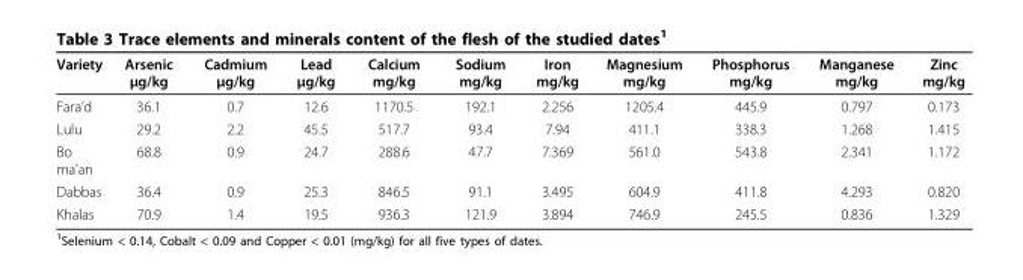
<table><thead><tr><td>Variety</td><td>Arsenic μg/kg</td><td>Cadmium μg/kg</td><td>Lead μg/kg</td><td>Calcium mg/kg</td><td>Sodium mg/kg</td><td>Iron mg/kg</td><td>Magnesium mg/kg</td><td>Phosphorus mg/kg</td><td>Manganese mg/kg</td><td>Zinc mg/kg</td></tr></thead><tbody><tr><td>Fara’d</td><td>36.1</td><td>0.7</td><td>12.6</td><td>1170.5</td><td>192.1</td><td>2.256</td><td>1205.4</td><td>445.9</td><td>0.797</td><td>0.173</td></tr><tr><td>Lulu</td><td>29.2</td><td>2.2</td><td>45.5</td><td>517.7</td><td>93.4</td><td>7.94</td><td>411.1</td><td>338.3</td><td>1.268</td><td>1.415</td></tr><tr><td>Bo ma’an</td><td>68.8</td><td>0.9</td><td>24.7</td><td>288.6</td><td>47.7</td><td>7.369</td><td>561.0</td><td>543.8</td><td>2.341</td><td>1.172</td></tr><tr><td>Dabbas</td><td>36.4</td><td>0.9</td><td>25.3</td><td>846.5</td><td>91.1</td><td>3.495</td><td>604.9</td><td>411.8</td><td>4.293</td><td>0.820</td></tr><tr><td>Khalas</td><td>70.9</td><td>1.4</td><td>19.5</td><td>936.3</td><td>121.9</td><td>3.894</td><td>746.9</td><td>245.5</td><td>0.836</td><td>1.329</td></tr></tbody></table>